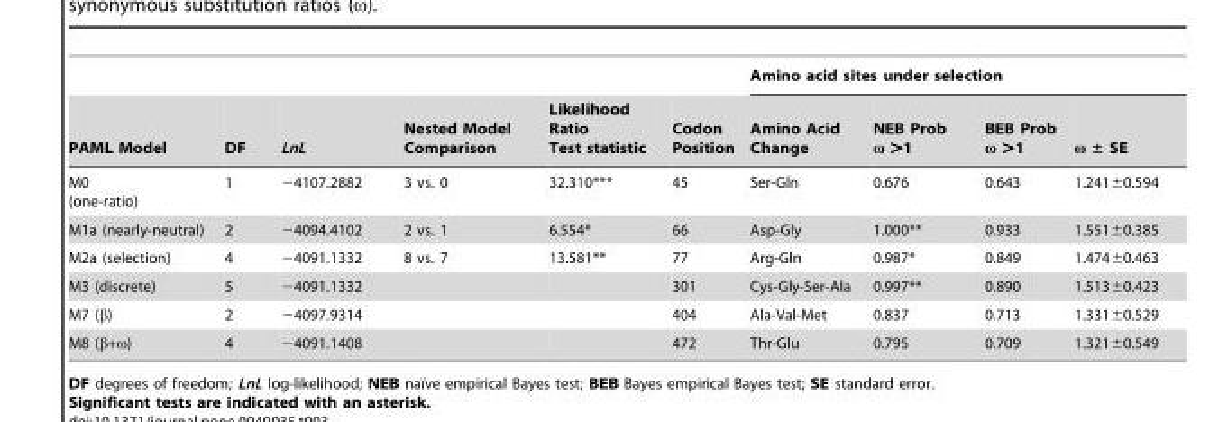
<table><thead><tr><td rowspan="2">PAML Model</td><td rowspan="2">DF</td><td rowspan="2">LnL</td><td rowspan="2">Nested Model Comparison</td><td rowspan="2">Likelihood Ratio Test statistic</td><td rowspan="2">Codon Position</td><td colspan="4">Amino acid sites under selection</td></tr><tr><td>Amino Acid Change</td><td>NEB Prob ω &gt;1</td><td>BEB Prob ω &gt;1</td><td>ω ± SE</td></tr></thead><tbody><tr><td>M0 (one-ratio)</td><td>1</td><td>−4107.2882</td><td>3 vs. 0</td><td>32.310***</td><td>45</td><td>Ser-Gln</td><td>0.676</td><td>0.643</td><td>1.241±0.594</td></tr><tr><td>M1a (nearly-neutral)</td><td>2</td><td>−4094.4102</td><td>2 vs. 1</td><td>6.554*</td><td>66</td><td>Asp-Gly</td><td>1.000**</td><td>0.933</td><td>1.551±0.385</td></tr><tr><td>M2a (selection)</td><td>4</td><td>−4091.1332</td><td>8 vs. 7</td><td>13.581**</td><td>77</td><td>Arg-Gln</td><td>0.987*</td><td>0.849</td><td>1.474±0.463</td></tr><tr><td>M3 (discrete)</td><td>5</td><td>−4091.1332</td><td></td><td></td><td>301</td><td>Cys-Gly-Ser-Ala</td><td>0.997**</td><td>0.890</td><td>1.513±0.423</td></tr><tr><td>M7 (β)</td><td>2</td><td>−4097.9314</td><td></td><td></td><td>404</td><td>Ala-Val-Met</td><td>0.837</td><td>0.713</td><td>1.331±0.529</td></tr><tr><td>M8 (β+ω)</td><td>4</td><td>−4091.1408</td><td></td><td></td><td>472</td><td>Thr-Glu</td><td>0.795</td><td>0.709</td><td>1.321±0.549</td></tr></tbody></table>